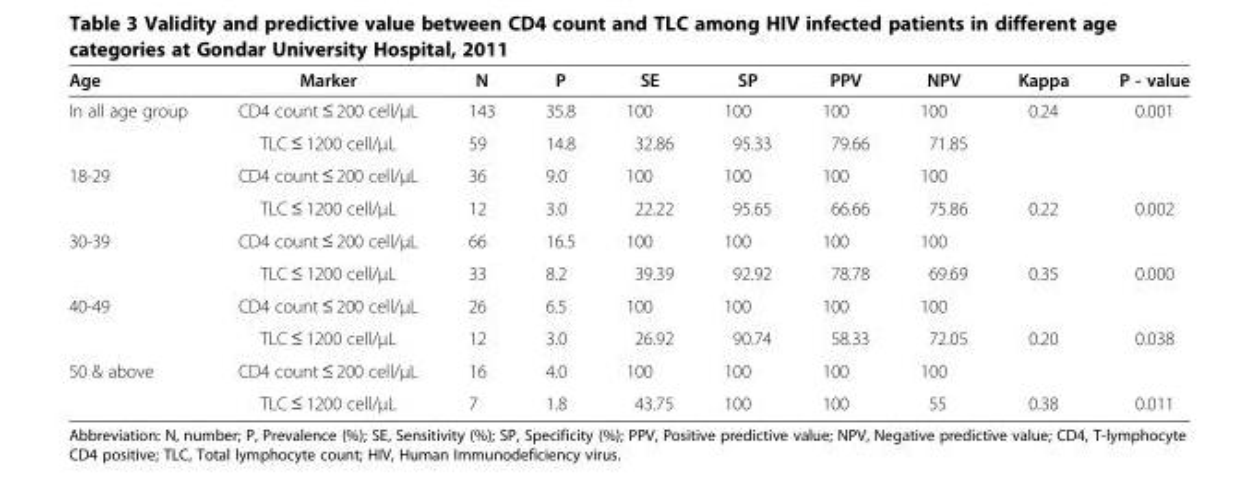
<table><thead><tr><td>Age</td><td>Marker</td><td>N</td><td>P</td><td>SE</td><td>SP</td><td>PPV</td><td>NPV</td><td>Kappa</td><td>P - value</td></tr></thead><tbody><tr><td rowspan="2">In all age group</td><td>CD4 count ≤ 200 cell/μL</td><td>143</td><td>35.8</td><td>100</td><td>100</td><td>100</td><td>100</td><td rowspan="2">0.24</td><td rowspan="2">0.001</td></tr><tr><td>TLC ≤ 1200 cell/μL</td><td>59</td><td>14.8</td><td>32.86</td><td>95.33</td><td>79.66</td><td>71.85</td></tr><tr><td rowspan="2">18-29</td><td>CD4 count ≤ 200 cell/μL</td><td>36</td><td>9.0</td><td>100</td><td>100</td><td>100</td><td>100</td><td></td><td></td></tr><tr><td>TLC ≤ 1200 cell/μL</td><td>12</td><td>3.0</td><td>22.22</td><td>95.65</td><td>66.66</td><td>75.86</td><td>0.22</td><td>0.002</td></tr><tr><td rowspan="2">30-39</td><td>CD4 count ≤ 200 cell/μL</td><td>66</td><td>16.5</td><td>100</td><td>100</td><td>100</td><td>100</td><td></td><td></td></tr><tr><td>TLC ≤ 1200 cell/μL</td><td>33</td><td>8.2</td><td>39.39</td><td>92.92</td><td>78.78</td><td>69.69</td><td>0.35</td><td>0.000</td></tr><tr><td rowspan="2">40-49</td><td>CD4 count ≤ 200 cell/μL</td><td>26</td><td>6.5</td><td>100</td><td>100</td><td>100</td><td>100</td><td></td><td></td></tr><tr><td>TLC ≤ 1200 cell/μL</td><td>12</td><td>3.0</td><td>26.92</td><td>90.74</td><td>58.33</td><td>72.05</td><td>0.20</td><td>0.038</td></tr><tr><td rowspan="2">50 &amp; above</td><td>CD4 count ≤ 200 cell/μL</td><td>16</td><td>4.0</td><td>100</td><td>100</td><td>100</td><td>100</td><td></td><td></td></tr><tr><td>TLC ≤ 1200 cell/μL</td><td>7</td><td>1.8</td><td>43.75</td><td>100</td><td>100</td><td>55</td><td>0.38</td><td>0.011</td></tr></tbody></table>